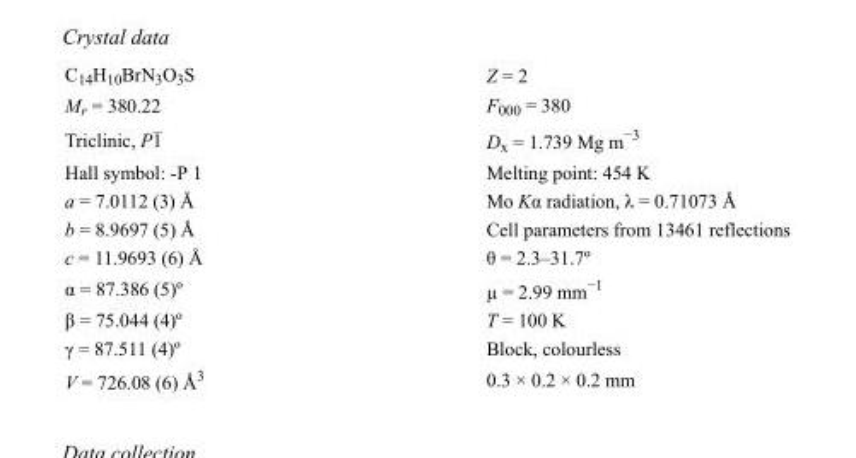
<table><tbody><tr><td>C<sub>14</sub>H<sub>10</sub>BrN<sub>3</sub>O<sub>3</sub>S</td><td>Z = 2</td></tr><tr><td>M<sub>r</sub> = 380.22</td><td>F000 = 380</td></tr><tr><td>Triclinic, P1</td><td>D<sub>x</sub> = 1.739 Mg m<sup>−3</sup></td></tr><tr><td>Hall symbol: -P 1</td><td>Melting point: 454 K</td></tr><tr><td>a = 7.0112 (3) Å</td><td>Mo Kα radiation, λ = 0.71073 Å</td></tr><tr><td>b = 8.9697 (5) Å</td><td>Cell parameters from 13461 reflections</td></tr><tr><td>c = 11.9693 (6) Å</td><td>θ = 2.3–31.7º</td></tr><tr><td>α = 87.386 (5)º</td><td>µ = 2.99 mm<sup>−1</sup></td></tr><tr><td>β = 75.044 (4)º</td><td>T = 100 K</td></tr><tr><td>γ = 87.511 (4)º</td><td>Block, colourless</td></tr><tr><td>V = 726.08 (6) Å<sup>3</sup></td><td>0.3 × 0.2 × 0.2 mm</td></tr></tbody></table>